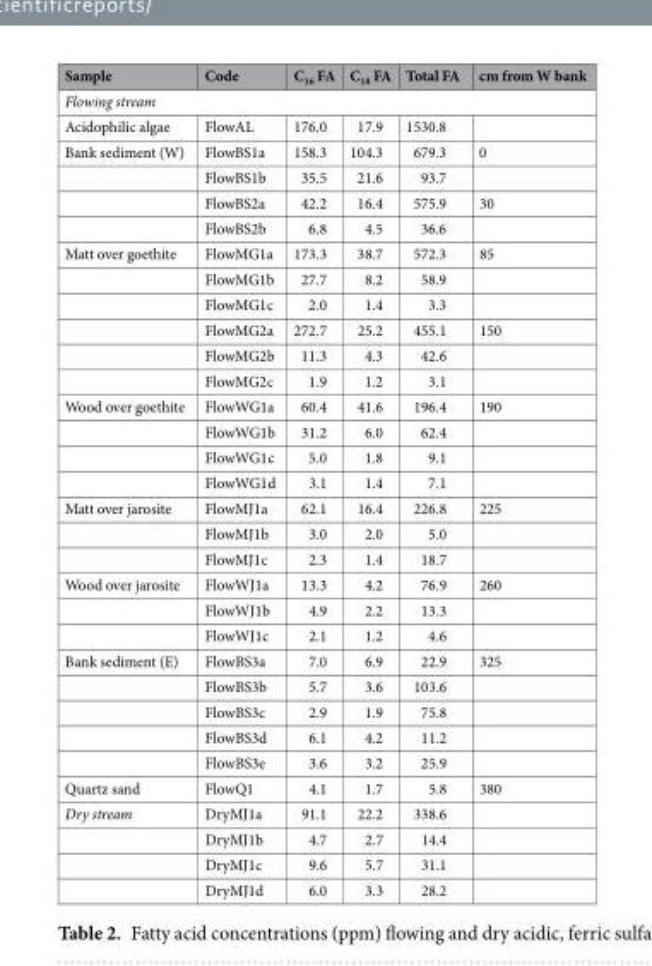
<table><thead><tr><td>Sample</td><td>Code</td><td>C<sub>16</sub> FA</td><td>C<sub>18</sub> FA</td><td>Total FA</td><td>cm from W bank</td></tr></thead><tbody><tr><td colspan="6">Flowing stream</td></tr><tr><td>Acidophilic algae</td><td>FlowAL</td><td>176.0</td><td>17.9</td><td>1530.8</td><td></td></tr><tr><td rowspan="4">Bank sediment (W)</td><td>FlowBS1a</td><td>158.3</td><td>104.3</td><td>679.3</td><td>0</td></tr><tr><td>FlowBS1b</td><td>35.5</td><td>21.6</td><td>93.7</td><td></td></tr><tr><td>FlowBS2a</td><td>42.2</td><td>16.4</td><td>575.9</td><td>30</td></tr><tr><td>FlowBS2b</td><td>6.8</td><td>4.5</td><td>36.6</td><td></td></tr><tr><td rowspan="6">Matt over goethite</td><td>FlowMG1a</td><td>173.3</td><td>38.7</td><td>572.3</td><td>85</td></tr><tr><td>FlowMG1b</td><td>27.7</td><td>8.2</td><td>58.9</td><td></td></tr><tr><td>FlowMG1c</td><td>2.0</td><td>1.4</td><td>3.3</td><td></td></tr><tr><td>FlowMG2a</td><td>272.7</td><td>25.2</td><td>455.1</td><td>150</td></tr><tr><td>FlowMG2b</td><td>11.3</td><td>4.3</td><td>42.6</td><td></td></tr><tr><td>FlowMG2c</td><td>1.9</td><td>1.2</td><td>3.1</td><td></td></tr><tr><td rowspan="4">Wood over goethite</td><td>FlowWG1a</td><td>60.4</td><td>41.6</td><td>196.4</td><td>190</td></tr><tr><td>FlowWG1b</td><td>31.2</td><td>6.0</td><td>62.4</td><td></td></tr><tr><td>FlowWG1c</td><td>5.0</td><td>1.8</td><td>9.1</td><td></td></tr><tr><td>FlowWG1d</td><td>3.1</td><td>1.4</td><td>7.1</td><td></td></tr><tr><td rowspan="3">Matt over jarosite</td><td>FlowMJ1a</td><td>62.1</td><td>16.4</td><td>226.8</td><td>225</td></tr><tr><td>FlowMJ1b</td><td>3.0</td><td>2.0</td><td>5.0</td><td></td></tr><tr><td>FlowMJ1c</td><td>2.3</td><td>1.4</td><td>18.7</td><td></td></tr><tr><td rowspan="3">Wood over jarosite</td><td>FlowWJ1a</td><td>13.3</td><td>4.2</td><td>76.9</td><td>260</td></tr><tr><td>FlowWJ1b</td><td>4.9</td><td>2.2</td><td>13.3</td><td></td></tr><tr><td>FlowWJ1c</td><td>2.1</td><td>1.2</td><td>4.6</td><td></td></tr><tr><td rowspan="5">Bank sediment (E)</td><td>FlowBS3a</td><td>7.0</td><td>6.9</td><td>22.9</td><td>325</td></tr><tr><td>FlowBS3b</td><td>5.7</td><td>3.6</td><td>103.6</td><td></td></tr><tr><td>FlowBS3c</td><td>2.9</td><td>1.9</td><td>75.8</td><td></td></tr><tr><td>FlowBS3d</td><td>6.1</td><td>4.2</td><td>11.2</td><td></td></tr><tr><td>FlowBS3e</td><td>3.6</td><td>3.2</td><td>25.9</td><td></td></tr><tr><td>Quartz sand</td><td>FlowQ1</td><td>4.1</td><td>1.7</td><td>5.8</td><td>380</td></tr><tr><td rowspan="4">Dry stream</td><td>DryMJ1a</td><td>91.1</td><td>22.2</td><td>338.6</td><td></td></tr><tr><td>DryMJ1b</td><td>4.7</td><td>2.7</td><td>14.4</td><td></td></tr><tr><td>DryMJ1c</td><td>9.6</td><td>5.7</td><td>31.1</td><td></td></tr><tr><td>DryMJ1d</td><td>6.0</td><td>3.3</td><td>28.2</td><td></td></tr></tbody></table>